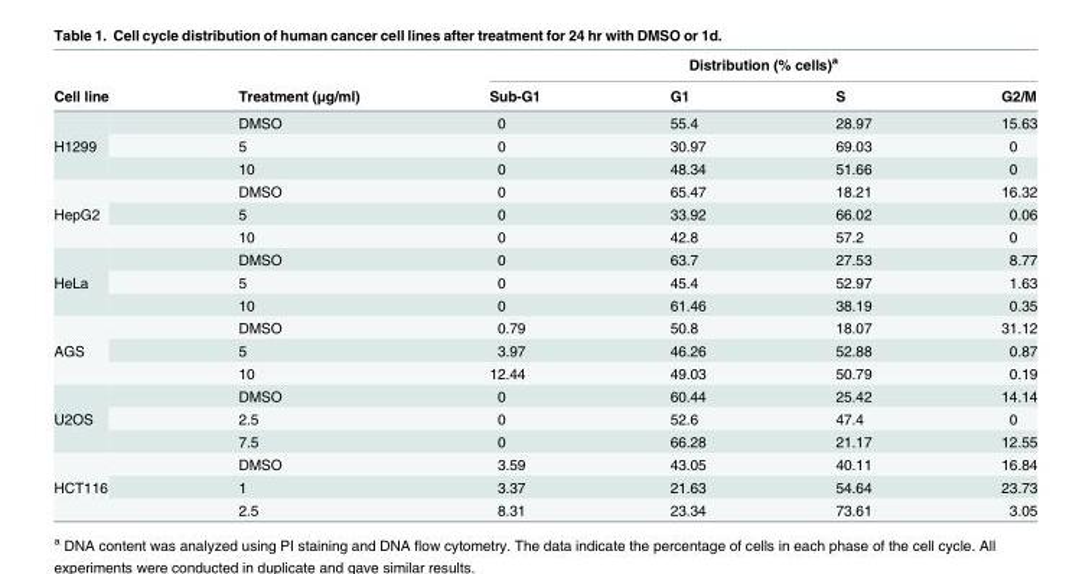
<table><thead><tr><td rowspan="2">Cell line</td><td rowspan="2">Treatment (μg/ml)</td><td colspan="4">Distribution (% cells)<sup>a</sup></td></tr><tr><td>Sub-G1</td><td>G1</td><td>S</td><td>G2/M</td></tr></thead><tbody><tr><td rowspan="3">H1299</td><td>DMSO</td><td>0</td><td>55.4</td><td>28.97</td><td>15.63</td></tr><tr><td>5</td><td>0</td><td>30.97</td><td>69.03</td><td>0</td></tr><tr><td>10</td><td>0</td><td>48.34</td><td>51.66</td><td>0</td></tr><tr><td rowspan="3">HepG2</td><td>DMSO</td><td>0</td><td>65.47</td><td>18.21</td><td>16.32</td></tr><tr><td>5</td><td>0</td><td>33.92</td><td>66.02</td><td>0.06</td></tr><tr><td>10</td><td>0</td><td>42.8</td><td>57.2</td><td>0</td></tr><tr><td rowspan="3">HeLa</td><td>DMSO</td><td>0</td><td>63.7</td><td>27.53</td><td>8.77</td></tr><tr><td>5</td><td>0</td><td>45.4</td><td>52.97</td><td>1.63</td></tr><tr><td>10</td><td>0</td><td>61.46</td><td>38.19</td><td>0.35</td></tr><tr><td rowspan="3">AGS</td><td>DMSO</td><td>0.79</td><td>50.8</td><td>18.07</td><td>31.12</td></tr><tr><td>5</td><td>3.97</td><td>46.26</td><td>52.88</td><td>0.87</td></tr><tr><td>10</td><td>12.44</td><td>49.03</td><td>50.79</td><td>0.19</td></tr><tr><td rowspan="3">U2OS</td><td>DMSO</td><td>0</td><td>60.44</td><td>25.42</td><td>14.14</td></tr><tr><td>2.5</td><td>0</td><td>52.6</td><td>47.4</td><td>0</td></tr><tr><td>7.5</td><td>0</td><td>66.28</td><td>21.17</td><td>12.55</td></tr><tr><td rowspan="3">HCT116</td><td>DMSO</td><td>3.59</td><td>43.05</td><td>40.11</td><td>16.84</td></tr><tr><td>1</td><td>3.37</td><td>21.63</td><td>54.64</td><td>23.73</td></tr><tr><td>2.5</td><td>8.31</td><td>23.34</td><td>73.61</td><td>3.05</td></tr></tbody></table>